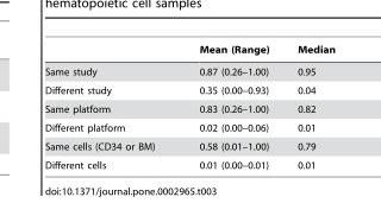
<table><thead><tr><td></td><td>Mean (Range)</td><td>Median</td></tr></thead><tbody><tr><td>Same study</td><td>0.87 (0.26–1.00)</td><td>0.95</td></tr><tr><td>Different study</td><td>0.35 (0.00–0.93)</td><td>0.04</td></tr><tr><td>Same platform</td><td>0.83 (0.26–1.00)</td><td>0.82</td></tr><tr><td>Different platform</td><td>0.02 (0.00–0.06)</td><td>0.01</td></tr><tr><td>Same cells (CD34 or BM)</td><td>0.58 (0.01–1.00)</td><td>0.79</td></tr><tr><td>Different cells</td><td>0.01 (0.00–0.01)</td><td>0.01</td></tr></tbody></table>